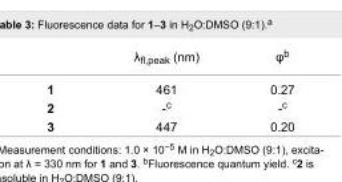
<table><thead><tr><td></td><td>λ<sub>fl,peak</sub> (nm)</td><td>φ<sup>b</sup></td></tr></thead><tbody><tr><td>1</td><td>461</td><td>0.27</td></tr><tr><td>2</td><td>-<sup>c</sup></td><td>-<sup>c</sup></td></tr><tr><td>3</td><td>447</td><td>0.20</td></tr></tbody></table>